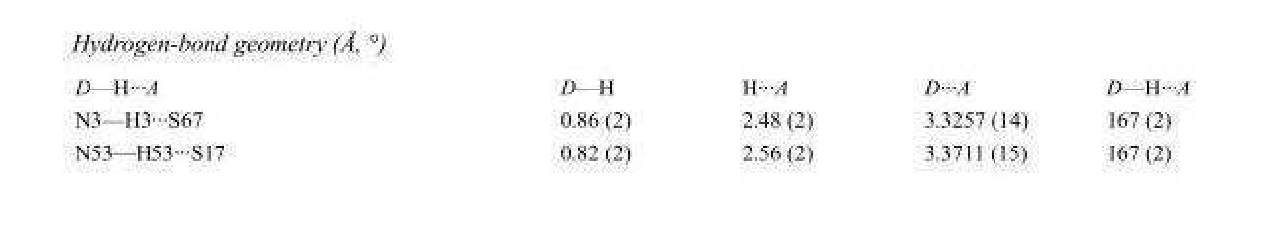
<table><tbody><tr><td>D—H···A</td><td>D—H</td><td>H···A</td><td>D···A</td><td>D—H···A</td></tr><tr><td>N3—H3···S67</td><td>0.86 (2)</td><td>2.48 (2)</td><td>3.3257 (14)</td><td>167 (2)</td></tr><tr><td>N53—H53···S17</td><td>0.82 (2)</td><td>2.56 (2)</td><td>3.3711 (15)</td><td>167 (2)</td></tr></tbody></table>